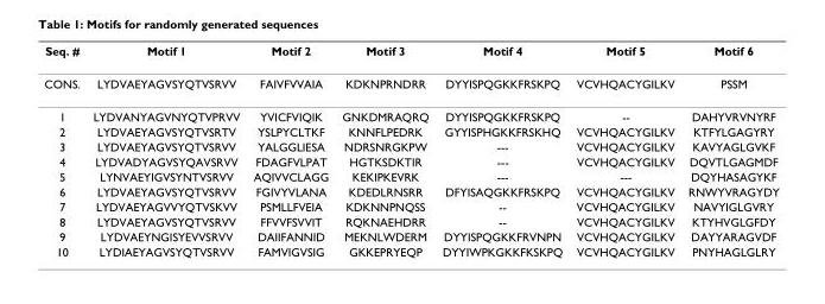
<table><thead><tr><td>Seq. #</td><td>Motif 1</td><td>Motif 2</td><td>Motif 3</td><td>Motif 4</td><td>Motif 5</td><td>Motif 6</td></tr></thead><tbody><tr><td>CONS.</td><td>LYDVAEYAGVSYQTVSRVV</td><td>FAIVFVVAIA</td><td>KDKNPRNDRR</td><td>DYYISPQGKKFRSKPQ</td><td>VCVHQACYGILKV</td><td>PSSM</td></tr><tr><td>1</td><td>LYDVANYAGVNYQTVPRVV</td><td>YVICFVIQIK</td><td>GNKDMRAQRQ</td><td>DYYISPQGKKFRSKPQ</td><td>--</td><td>DAHYVRVNYRF</td></tr><tr><td>2</td><td>LYDVAEYAGVSYQTVSRTV</td><td>YSLPYCLTKF</td><td>KNNFLPEDRK</td><td>GYYISPHGKKFRSKHQ</td><td>VCVHQACYGILKV</td><td>KTFYLGAGYRY</td></tr><tr><td>3</td><td>LYDVAEYAGVSYQTVSRVV</td><td>YALGGLIESA</td><td>NDRSNRGKPW</td><td>---</td><td>VCVHQACYGILKV</td><td>KAVYAGLGVKF</td></tr><tr><td>4</td><td>LYDVADYAGVSYQAVSRVV</td><td>FDAGFVLPAT</td><td>HGTKSDKTIR</td><td>---</td><td>VCVHQACYGILKV</td><td>DQVTLGAGMDF</td></tr><tr><td>5</td><td>LYNVAEYIGVSYNTVSRVV</td><td>AQIVVCLAGG</td><td>KEKIPKEVRK</td><td>---</td><td>---</td><td>DQYHASAGYKF</td></tr><tr><td>6</td><td>LYDVAEYAGVSYQTVSRVV</td><td>FGIVYVLANA</td><td>KDEDLRNSRR</td><td>DFYISAQGKKFRSKPQ</td><td>VCVHQACYGILKV</td><td>RNWYVRAGYDY</td></tr><tr><td>7</td><td>LYDVAEYAGVVYQTVSKVV</td><td>PSMLLFVEIA</td><td>KDKNNPNQSS</td><td>--</td><td>VCVHQACYGILKV</td><td>NAVYIGLGVRY</td></tr><tr><td>8</td><td>LYDVAEYAGVSYQTVSRVV</td><td>FFVVFSVVIT</td><td>RQKNAEHDRR</td><td>--</td><td>VCVHQACYGILKV</td><td>KTYHVGLGFDY</td></tr><tr><td>9</td><td>LYDVAEYNGISYEVVSRVV</td><td>DAIIFANNID</td><td>MEKNLWDERM</td><td>DYYISPQGKKFRVNPN</td><td>VCVHQACYGILKV</td><td>DAYYARAGVDF</td></tr><tr><td>10</td><td>LYDIAEYAGVSYQTVSRVV</td><td>FAMVIGVSIG</td><td>GKKEPRYEQP</td><td>DYYIWPKGKKFKSKPQ</td><td>VCVHQACYGILKV</td><td>PNYHAGLGLRY</td></tr></tbody></table>